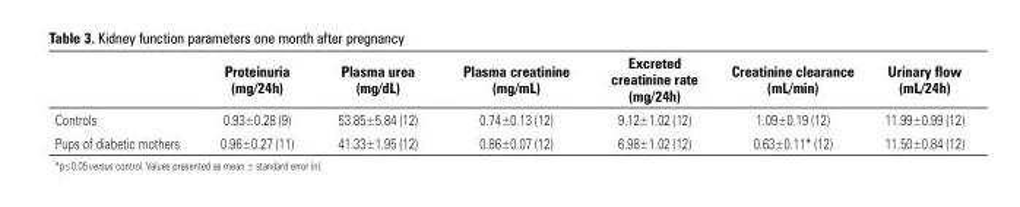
<table><thead><tr><td></td><td>Proteinuria (mg/24h)</td><td>Plasma urea (mg/dL)</td><td>Plasma creatinine (mg/mL)</td><td>Excreted creatinine rate (mg/24h)</td><td>Creatinine clearance (mL/min)</td><td>Urinary flow (mL/24h)</td></tr></thead><tbody><tr><td>Controls</td><td>0.93±0.28 (9)</td><td>53.85±5.84 (12)</td><td>0.74±0.13 (12)</td><td>9.12±1.02 (12)</td><td>1.09±0.19 (12)</td><td>11.99±0.99 (12)</td></tr><tr><td>Pups of diabetic mothers</td><td>0.96±0.27 (11)</td><td>41.33±1.95 (12)</td><td>0.86±0.07 (12)</td><td>6.98±1.02 (12)</td><td>0.63±0.11* (12)</td><td>11.50±0.84 (12)</td></tr></tbody></table>